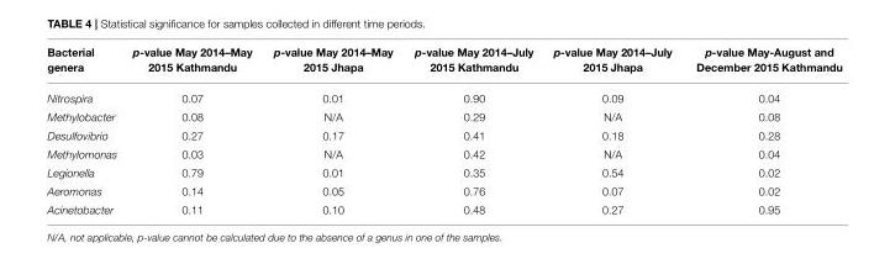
<table><thead><tr><td>Bacterial genera</td><td>p-value May 2014–May 2015 Kathmandu</td><td>p-value May 2014–May 2015 Jhapa</td><td>p-value May 2014–July 2015 Kathmandu</td><td>p-value May 2014–July 2015 Jhapa</td><td>p-value May-August and December 2015 Kathmandu</td></tr></thead><tbody><tr><td>Nitrospira</td><td>0.07</td><td>0.01</td><td>0.90</td><td>0.09</td><td>0.04</td></tr><tr><td>Methylobacter</td><td>0.08</td><td>N/A</td><td>0.29</td><td>N/A</td><td>0.08</td></tr><tr><td>Desulfovibrio</td><td>0.27</td><td>0.17</td><td>0.41</td><td>0.18</td><td>0.28</td></tr><tr><td>Methylomonas</td><td>0.03</td><td>N/A</td><td>0.42</td><td>N/A</td><td>0.04</td></tr><tr><td>Legionella</td><td>0.79</td><td>0.01</td><td>0.35</td><td>0.54</td><td>0.02</td></tr><tr><td>Aeromonas</td><td>0.14</td><td>0.05</td><td>0.76</td><td>0.07</td><td>0.02</td></tr><tr><td>Acinetobacter</td><td>0.11</td><td>0.10</td><td>0.48</td><td>0.27</td><td>0.95</td></tr></tbody></table>